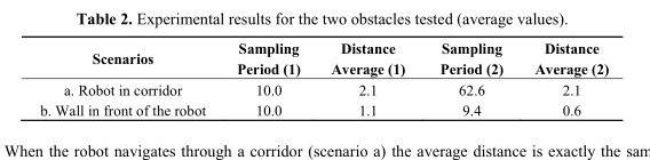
<table><thead><tr><td>Scenarios</td><td>Sampling Period (1)</td><td>Distance Average (1)</td><td>Sampling Period (2)</td><td>Distance Average (2)</td></tr></thead><tbody><tr><td>a. Robot in corridor</td><td>10.0</td><td>2.1</td><td>62.6</td><td>2.1</td></tr><tr><td>b. Wall in front of the robot</td><td>10.0</td><td>1.1</td><td>9.4</td><td>0.6</td></tr></tbody></table>